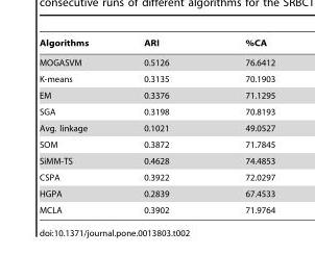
<table><thead><tr><td>Algorithms</td><td>ARI</td><td>%CA</td></tr></thead><tbody><tr><td>MOGASVM</td><td>0.5126</td><td>76.6412</td></tr><tr><td>K-means</td><td>0.3135</td><td>70.1903</td></tr><tr><td>EM</td><td>0.3376</td><td>71.1295</td></tr><tr><td>SGA</td><td>0.3198</td><td>70.8193</td></tr><tr><td>Avg. linkage</td><td>0.1021</td><td>49.0527</td></tr><tr><td>SOM</td><td>0.3872</td><td>71.7845</td></tr><tr><td>SiMM-TS</td><td>0.4628</td><td>74.4853</td></tr><tr><td>CSPA</td><td>0.3922</td><td>72.0297</td></tr><tr><td>HGPA</td><td>0.2839</td><td>67.4533</td></tr><tr><td>MCLA</td><td>0.3902</td><td>71.9764</td></tr></tbody></table>